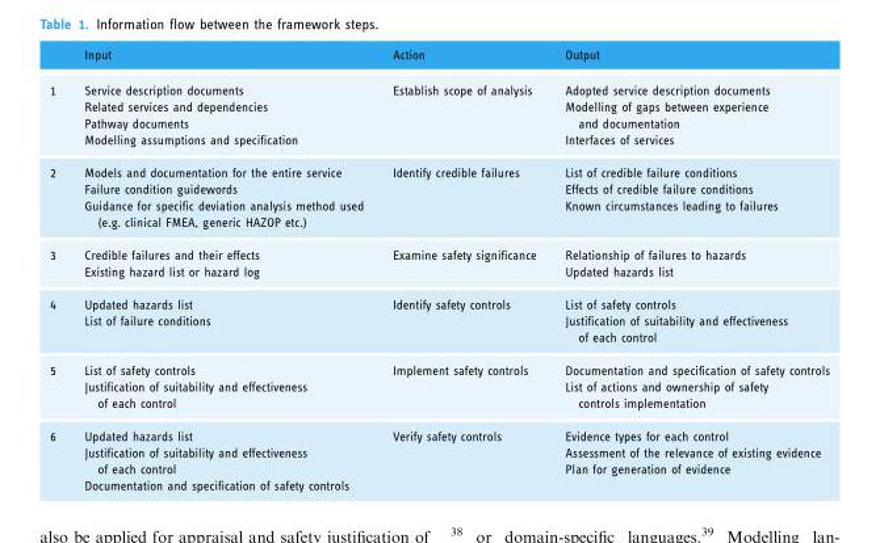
<table><thead><tr><td></td><td>Input</td><td>Action</td><td>Output</td></tr></thead><tbody><tr><td>1</td><td>Service description documents Related services and dependencies Pathway documents Modelling assumptions and specification</td><td>Establish scope of analysis</td><td>Adopted service description documents Modelling of gaps between experience and documentation Interfaces of services</td></tr><tr><td>2</td><td>Models and documentation for the entire service Failure condition guidewords Guidance for specific deviation analysis method used (e.g. clinical FMEA, generic HAZOP etc.)</td><td>Identify credible failures</td><td>List of credible failure conditions Effects of credible failure conditions Known circumstances leading to failures</td></tr><tr><td>3</td><td>Credible failures and their effects Existing hazard list or hazard log</td><td>Examine safety significance</td><td>Relationship of failures to hazards Updated hazards list</td></tr><tr><td>4</td><td>Updated hazards list List of failure conditions</td><td>Identify safety controls</td><td>List of safety controls Justification of suitability and effectiveness of each control</td></tr><tr><td>5</td><td>List of safety controls Justification of suitability and effectiveness of each control</td><td>Implement safety controls</td><td>Documentation and specification of safety controls List of actions and ownership of safety controls implementation</td></tr><tr><td>6</td><td>Updated hazards list Justification of suitability and effectiveness of each control Documentation and specification of safety controls</td><td>Verify safety controls</td><td>Evidence types for each control Assessment of the relevance of existing evidence Plan for generation of evidence</td></tr></tbody></table>